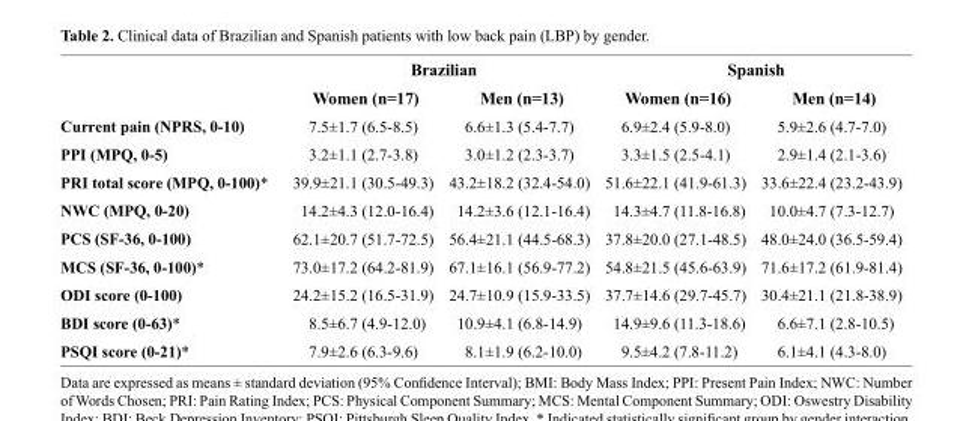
<table><thead><tr><td rowspan="2"></td><td colspan="2">Brazilian</td><td colspan="2">Spanish</td></tr><tr><td>Women (n=17)</td><td>Men (n=13)</td><td>Women (n=16)</td><td>Men (n=14)</td></tr></thead><tbody><tr><td>Current pain (NPRS, 0-10)</td><td>7.5±1.7 (6.5-8.5)</td><td>6.6±1.3 (5.4-7.7)</td><td>6.9±2.4 (5.9-8.0)</td><td>5.9±2.6 (4.7-7.0)</td></tr><tr><td>PPI (MPQ, 0-5)</td><td>3.2±1.1 (2.7-3.8)</td><td>3.0±1.2 (2.3-3.7)</td><td>3.3±1.5 (2.5-4.1)</td><td>2.9±1.4 (2.1-3.6)</td></tr><tr><td>PRI total score (MPQ, 0-100)*</td><td>39.9±21.1 (30.5-49.3)</td><td>43.2±18.2 (32.4-54.0)</td><td>51.6±22.1 (41.9-61.3)</td><td>33.6±22.4 (23.2-43.9)</td></tr><tr><td>NWC (MPQ, 0-20)</td><td>14.2±4.3 (12.0-16.4)</td><td>14.2±3.6 (12.1-16.4)</td><td>14.3±4.7 (11.8-16.8)</td><td>10.0±4.7 (7.3-12.7)</td></tr><tr><td>PCS (SF-36, 0-100)</td><td>62.1±20.7 (51.7-72.5)</td><td>56.4±21.1 (44.5-68.3)</td><td>37.8±20.0 (27.1-48.5)</td><td>48.0±24.0 (36.5-59.4)</td></tr><tr><td>MCS (SF-36, 0-100)*</td><td>73.0±17.2 (64.2-81.9)</td><td>67.1±16.1 (56.9-77.2)</td><td>54.8±21.5 (45.6-63.9)</td><td>71.6±17.2 (61.9-81.4)</td></tr><tr><td>ODI score (0-100)</td><td>24.2±15.2 (16.5-31.9)</td><td>24.7±10.9 (15.9-33.5)</td><td>37.7±14.6 (29.7-45.7)</td><td>30.4±21.1 (21.8-38.9)</td></tr><tr><td>BDI score (0-63)*</td><td>8.5±6.7 (4.9-12.0)</td><td>10.9±4.1 (6.8-14.9)</td><td>14.9±9.6 (11.3-18.6)</td><td>6.6±7.1 (2.8-10.5)</td></tr><tr><td>PSQI score (0-21)*</td><td>7.9±2.6 (6.3-9.6)</td><td>8.1±1.9 (6.2-10.0)</td><td>9.5±4.2 (7.8-11.2)</td><td>6.1±4.1 (4.3-8.0)</td></tr></tbody></table>